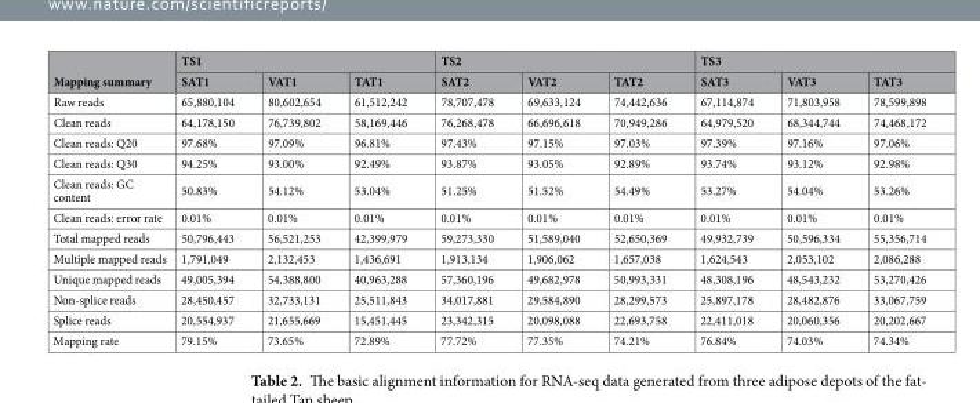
<table><thead><tr><td rowspan="2">Mapping summary</td><td colspan="3">TS1</td><td colspan="3">TS2</td><td colspan="3">TS3</td></tr><tr><td>SAT1</td><td>VAT1</td><td>TAT1</td><td>SAT2</td><td>VAT2</td><td>TAT2</td><td>SAT3</td><td>VAT3</td><td>TAT3</td></tr></thead><tbody><tr><td>Raw reads</td><td>65,880,104</td><td>80,602,654</td><td>61,512,242</td><td>78,707,478</td><td>69,633,124</td><td>74,442,636</td><td>67,114,874</td><td>71,803,958</td><td>78,599,898</td></tr><tr><td>Clean reads</td><td>64,178,150</td><td>76,739,802</td><td>58,169,446</td><td>76,268,478</td><td>66,696,618</td><td>70,949,286</td><td>64,979,520</td><td>68,344,744</td><td>74,468,172</td></tr><tr><td>Clean reads: Q20</td><td>97.68%</td><td>97.09%</td><td>96.81%</td><td>97.43%</td><td>97.15%</td><td>97.03%</td><td>97.39%</td><td>97.16%</td><td>97.06%</td></tr><tr><td>Clean reads: Q30</td><td>94.25%</td><td>93.00%</td><td>92.49%</td><td>93.87%</td><td>93.05%</td><td>92.89%</td><td>93.74%</td><td>93.12%</td><td>92.98%</td></tr><tr><td>Clean reads: GC content</td><td>50.83%</td><td>54.12%</td><td>53.04%</td><td>51.25%</td><td>51.52%</td><td>54.49%</td><td>53.27%</td><td>54.04%</td><td>53.26%</td></tr><tr><td>Clean reads: error rate</td><td>0.01%</td><td>0.01%</td><td>0.01%</td><td>0.01%</td><td>0.01%</td><td>0.01%</td><td>0.01%</td><td>0.01%</td><td>0.01%</td></tr><tr><td>Total mapped reads</td><td>50,796,443</td><td>56,521,253</td><td>42,399,979</td><td>59,273,330</td><td>51,589,040</td><td>52,650,369</td><td>49,932,739</td><td>50,596,334</td><td>55,356,714</td></tr><tr><td>Multiple mapped reads</td><td>1,791,049</td><td>2,132,453</td><td>1,436,691</td><td>1,913,134</td><td>1,906,062</td><td>1,657,038</td><td>1,624,543</td><td>2,053,102</td><td>2,086,288</td></tr><tr><td>Unique mapped reads</td><td>49,005,394</td><td>54,388,800</td><td>40,963,288</td><td>57,360,196</td><td>49,682,978</td><td>50,993,331</td><td>48,308,196</td><td>48,543,232</td><td>53,270,426</td></tr><tr><td>Non-splice reads</td><td>28,450,457</td><td>32,733,131</td><td>25,511,843</td><td>34,017,881</td><td>29,584,890</td><td>28,299,573</td><td>25,897,178</td><td>28,482,876</td><td>33,067,759</td></tr><tr><td>Splice reads</td><td>20,554,937</td><td>21,655,669</td><td>15,451,445</td><td>23,342,315</td><td>20,098,088</td><td>22,693,758</td><td>22,411,018</td><td>20,060,356</td><td>20,202,667</td></tr><tr><td>Mapping rate</td><td>79.15%</td><td>73.65%</td><td>72.89%</td><td>77.72%</td><td>77.35%</td><td>74.21%</td><td>76.84%</td><td>74.03%</td><td>74.34%</td></tr></tbody></table>